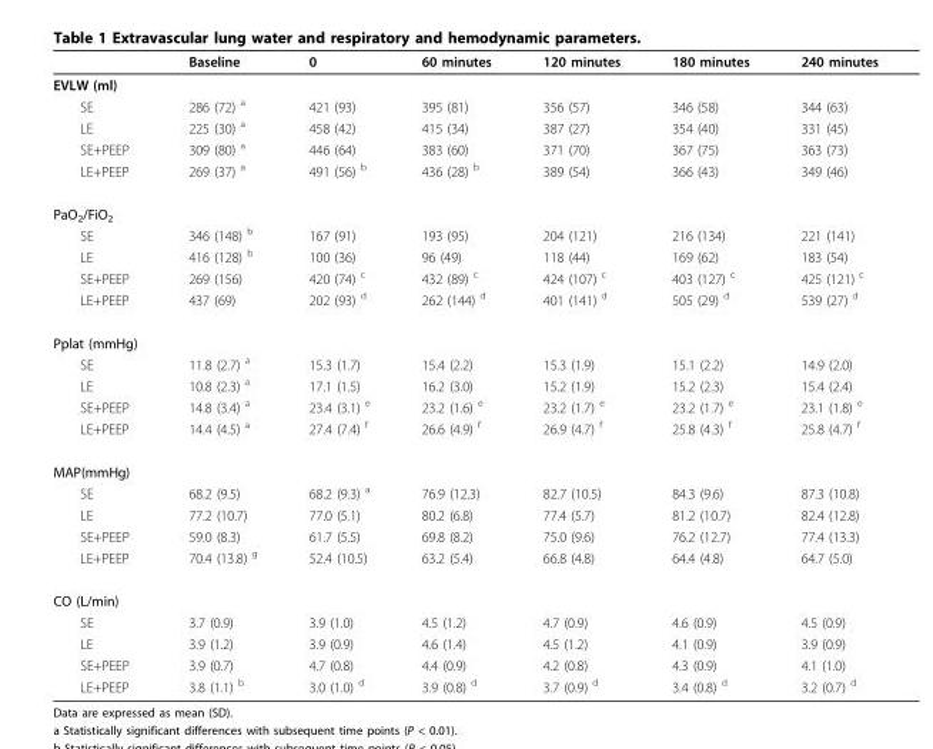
<table><thead><tr><td></td><td>Baseline</td><td>0</td><td>60 minutes</td><td>120 minutes</td><td>180 minutes</td><td>240 minutes</td></tr></thead><tbody><tr><td colspan="7">EVLW (ml)</td></tr><tr><td>SE</td><td>286 (72) <sup>a</sup></td><td>421 (93)</td><td>395 (81)</td><td>356 (57)</td><td>346 (58)</td><td>344 (63)</td></tr><tr><td>LE</td><td>225 (30) <sup>a</sup></td><td>458 (42)</td><td>415 (34)</td><td>387 (27)</td><td>354 (40)</td><td>331 (45)</td></tr><tr><td>SE+PEEP</td><td>309 (80) <sup>a</sup></td><td>446 (64)</td><td>383 (60)</td><td>371 (70)</td><td>367 (75)</td><td>363 (73)</td></tr><tr><td>LE+PEEP</td><td>269 (37) <sup>a</sup></td><td>491 (56) <sup>b</sup></td><td>436 (28) <sup>b</sup></td><td>389 (54)</td><td>366 (43)</td><td>349 (46)</td></tr><tr><td colspan="7">PaO<sub>2</sub>/FiO<sub>2</sub></td></tr><tr><td>SE</td><td>346 (148) <sup>b</sup></td><td>167 (91)</td><td>193 (95)</td><td>204 (121)</td><td>216 (134)</td><td>221 (141)</td></tr><tr><td>LE</td><td>416 (128) <sup>b</sup></td><td>100 (36)</td><td>96 (49)</td><td>118 (44)</td><td>169 (62)</td><td>183 (54)</td></tr><tr><td>SE+PEEP</td><td>269 (156)</td><td>420 (74) <sup>c</sup></td><td>432 (89) <sup>c</sup></td><td>424 (107) <sup>c</sup></td><td>403 (127) <sup>c</sup></td><td>425 (121) <sup>c</sup></td></tr><tr><td>LE+PEEP</td><td>437 (69)</td><td>202 (93) <sup>d</sup></td><td>262 (144) <sup>d</sup></td><td>401 (141) <sup>d</sup></td><td>505 (29) <sup>d</sup></td><td>539 (27) <sup>d</sup></td></tr><tr><td colspan="7">Pplat (mmHg)</td></tr><tr><td>SE</td><td>11.8 (2.7) <sup>a</sup></td><td>15.3 (1.7)</td><td>15.4 (2.2)</td><td>15.3 (1.9)</td><td>15.1 (2.2)</td><td>14.9 (2.0)</td></tr><tr><td>LE</td><td>10.8 (2.3) <sup>a</sup></td><td>17.1 (1.5)</td><td>16.2 (3.0)</td><td>15.2 (1.9)</td><td>15.2 (2.3)</td><td>15.4 (2.4)</td></tr><tr><td>SE+PEEP</td><td>14.8 (3.4) <sup>a</sup></td><td>23.4 (3.1) <sup>e</sup></td><td>23.2 (1.6) <sup>e</sup></td><td>23.2 (1.7) <sup>e</sup></td><td>23.2 (1.7) <sup>e</sup></td><td>23.1 (1.8) <sup>e</sup></td></tr><tr><td>LE+PEEP</td><td>14.4 (4.5) <sup>a</sup></td><td>27.4 (7.4) <sup>f</sup></td><td>26.6 (4.9) <sup>f</sup></td><td>26.9 (4.7) <sup>f</sup></td><td>25.8 (4.3) <sup>f</sup></td><td>25.8 (4.7) <sup>f</sup></td></tr><tr><td colspan="7">MAP(mmHg)</td></tr><tr><td>SE</td><td>68.2 (9.5)</td><td>68.2 (9.3) <sup>a</sup></td><td>76.9 (12.3)</td><td>82.7 (10.5)</td><td>84.3 (9.6)</td><td>87.3 (10.8)</td></tr><tr><td>LE</td><td>77.2 (10.7)</td><td>77.0 (5.1)</td><td>80.2 (6.8)</td><td>77.4 (5.7)</td><td>81.2 (10.7)</td><td>82.4 (12.8)</td></tr><tr><td>SE+PEEP</td><td>59.0 (8.3)</td><td>61.7 (5.5)</td><td>69.8 (8.2)</td><td>75.0 (9.6)</td><td>76.2 (12.7)</td><td>77.4 (13.3)</td></tr><tr><td>LE+PEEP</td><td>70.4 (13.8) <sup>g</sup></td><td>52.4 (10.5)</td><td>63.2 (5.4)</td><td>66.8 (4.8)</td><td>64.4 (4.8)</td><td>64.7 (5.0)</td></tr><tr><td colspan="7">CO (L/min)</td></tr><tr><td>SE</td><td>3.7 (0.9)</td><td>3.9 (1.0)</td><td>4.5 (1.2)</td><td>4.7 (0.9)</td><td>4.6 (0.9)</td><td>4.5 (0.9)</td></tr><tr><td>LE</td><td>3.9 (1.2)</td><td>3.9 (0.9)</td><td>4.6 (1.4)</td><td>4.5 (1.2)</td><td>4.1 (0.9)</td><td>3.9 (0.9)</td></tr><tr><td>SE+PEEP</td><td>3.9 (0.7)</td><td>4.7 (0.8)</td><td>4.4 (0.9)</td><td>4.2 (0.8)</td><td>4.3 (0.9)</td><td>4.1 (1.0)</td></tr><tr><td>LE+PEEP</td><td>3.8 (1.1) <sup>b</sup></td><td>3.0 (1.0) <sup>d</sup></td><td>3.9 (0.8) <sup>d</sup></td><td>3.7 (0.9) <sup>d</sup></td><td>3.4 (0.8) <sup>d</sup></td><td>3.2 (0.7) <sup>d</sup></td></tr></tbody></table>